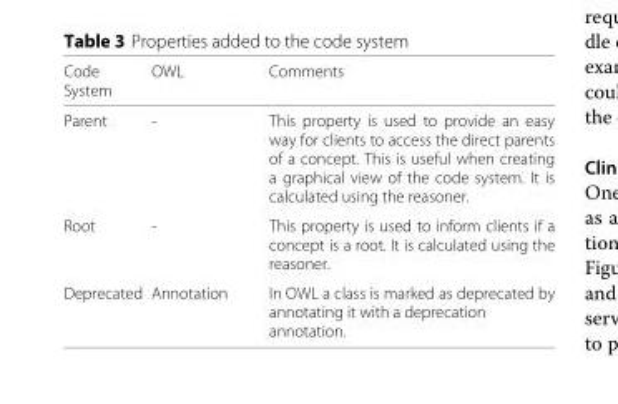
<table><thead><tr><td>Code System</td><td>OWL</td><td>Comments</td></tr></thead><tbody><tr><td>Parent</td><td>-</td><td>This property is used to provide an easy way for clients to access the direct parents of a concept. This is useful when creating a graphical view of the code system. It is calculated using the reasoner.</td></tr><tr><td>Root</td><td>-</td><td>This property is used to inform clients if a concept is a root. It is calculated using the reasoner.</td></tr><tr><td>Deprecated</td><td>Annotation</td><td>In OWL a class is marked as deprecated by annotating it with a deprecation annotation.</td></tr></tbody></table>